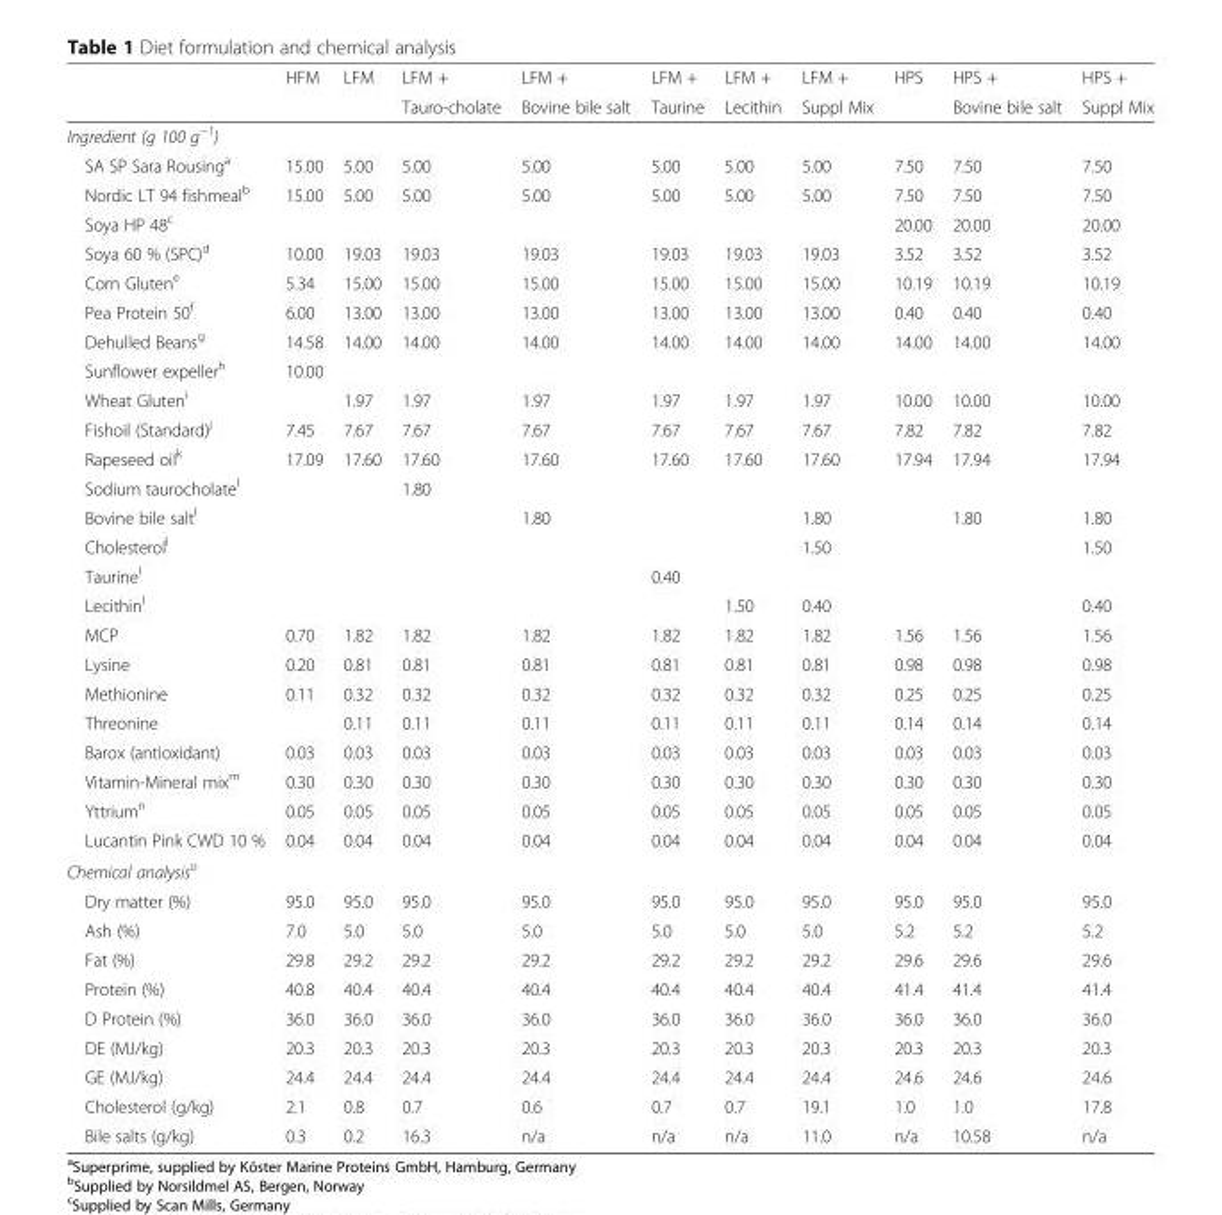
<table><thead><tr><td rowspan="2"></td><td rowspan="2">HFM</td><td rowspan="2">LFM</td><td rowspan="2">LFM + Tauro-cholate</td><td rowspan="2">LFM + Bovine bile salt</td><td rowspan="2">LFM + Taurine</td><td rowspan="2">LFM + Lecithin</td><td rowspan="2">LFM + Suppl Mix</td><td rowspan="2">HPS</td><td rowspan="2">HPS + Bovine bile salt</td><td rowspan="2">HPS + Suppl Mix</td></tr><tr></tr></thead><tbody><tr><td colspan="11">Ingredient (g 100 g<sup>−1</sup>)</td></tr><tr><td>SA SP Sara Rousing<sup>a</sup></td><td>15.00</td><td>5.00</td><td>5.00</td><td>5.00</td><td>5.00</td><td>5.00</td><td>5.00</td><td>7.50</td><td>7.50</td><td>7.50</td></tr><tr><td>Nordic LT 94 fishmeal<sup>b</sup></td><td>15.00</td><td>5.00</td><td>5.00</td><td>5.00</td><td>5.00</td><td>5.00</td><td>5.00</td><td>7.50</td><td>7.50</td><td>7.50</td></tr><tr><td>Soya HP 48<sup>c</sup></td><td></td><td></td><td></td><td></td><td></td><td></td><td></td><td>20.00</td><td>20.00</td><td>20.00</td></tr><tr><td>Soya 60 % (SPC)<sup>d</sup></td><td>10.00</td><td>19.03</td><td>19.03</td><td>19.03</td><td>19.03</td><td>19.03</td><td>19.03</td><td>3.52</td><td>3.52</td><td>3.52</td></tr><tr><td>Corn Gluten<sup>e</sup></td><td>5.34</td><td>15.00</td><td>15.00</td><td>15.00</td><td>15.00</td><td>15.00</td><td>15.00</td><td>10.19</td><td>10.19</td><td>10.19</td></tr><tr><td>Pea Protein 50<sup>f</sup></td><td>6.00</td><td>13.00</td><td>13.00</td><td>13.00</td><td>13.00</td><td>13.00</td><td>13.00</td><td>0.40</td><td>0.40</td><td>0.40</td></tr><tr><td>Dehulled Beans<sup>g</sup></td><td>14.58</td><td>14.00</td><td>14.00</td><td>14.00</td><td>14.00</td><td>14.00</td><td>14.00</td><td>14.00</td><td>14.00</td><td>14.00</td></tr><tr><td>Sunflower expeller<sup>h</sup></td><td>10.00</td><td></td><td></td><td></td><td></td><td></td><td></td><td></td><td></td><td></td></tr><tr><td>Wheat Gluten<sup>i</sup></td><td></td><td>1.97</td><td>1.97</td><td>1.97</td><td>1.97</td><td>1.97</td><td>1.97</td><td>10.00</td><td>10.00</td><td>10.00</td></tr><tr><td>Fishoil (Standard)<sup>j</sup></td><td>7.45</td><td>7.67</td><td>7.67</td><td>7.67</td><td>7.67</td><td>7.67</td><td>7.67</td><td>7.82</td><td>7.82</td><td>7.82</td></tr><tr><td>Rapeseed oil<sup>k</sup></td><td>17.09</td><td>17.60</td><td>17.60</td><td>17.60</td><td>17.60</td><td>17.60</td><td>17.60</td><td>17.94</td><td>17.94</td><td>17.94</td></tr><tr><td>Sodium taurocholate<sup>l</sup></td><td></td><td></td><td>1.80</td><td></td><td></td><td></td><td></td><td></td><td></td><td></td></tr><tr><td>Bovine bile salt<sup>l</sup></td><td></td><td></td><td></td><td>1.80</td><td></td><td></td><td>1.80</td><td></td><td>1.80</td><td>1.80</td></tr><tr><td>Cholesterol<sup>l</sup></td><td></td><td></td><td></td><td></td><td></td><td></td><td>1.50</td><td></td><td></td><td>1.50</td></tr><tr><td>Taurine<sup>l</sup></td><td></td><td></td><td></td><td></td><td>0.40</td><td></td><td></td><td></td><td></td><td></td></tr><tr><td>Lecithin<sup>l</sup></td><td></td><td></td><td></td><td></td><td></td><td>1.50</td><td>0.40</td><td></td><td></td><td>0.40</td></tr><tr><td>MCP</td><td>0.70</td><td>1.82</td><td>1.82</td><td>1.82</td><td>1.82</td><td>1.82</td><td>1.82</td><td>1.56</td><td>1.56</td><td>1.56</td></tr><tr><td>Lysine</td><td>0.20</td><td>0.81</td><td>0.81</td><td>0.81</td><td>0.81</td><td>0.81</td><td>0.81</td><td>0.98</td><td>0.98</td><td>0.98</td></tr><tr><td>Methionine</td><td>0.11</td><td>0.32</td><td>0.32</td><td>0.32</td><td>0.32</td><td>0.32</td><td>0.32</td><td>0.25</td><td>0.25</td><td>0.25</td></tr><tr><td>Threonine</td><td></td><td>0.11</td><td>0.11</td><td>0.11</td><td>0.11</td><td>0.11</td><td>0.11</td><td>0.14</td><td>0.14</td><td>0.14</td></tr><tr><td>Barox (antioxidant)</td><td>0.03</td><td>0.03</td><td>0.03</td><td>0.03</td><td>0.03</td><td>0.03</td><td>0.03</td><td>0.03</td><td>0.03</td><td>0.03</td></tr><tr><td>Vitamin-Mineral mix<sup>m</sup></td><td>0.30</td><td>0.30</td><td>0.30</td><td>0.30</td><td>0.30</td><td>0.30</td><td>0.30</td><td>0.30</td><td>0.30</td><td>0.30</td></tr><tr><td>Yttrium<sup>n</sup></td><td>0.05</td><td>0.05</td><td>0.05</td><td>0.05</td><td>0.05</td><td>0.05</td><td>0.05</td><td>0.05</td><td>0.05</td><td>0.05</td></tr><tr><td>Lucantin Pink CWD 10 %</td><td>0.04</td><td>0.04</td><td>0.04</td><td>0.04</td><td>0.04</td><td>0.04</td><td>0.04</td><td>0.04</td><td>0.04</td><td>0.04</td></tr><tr><td colspan="11">Chemical analysis<sup>o</sup></td></tr><tr><td>Dry matter (%)</td><td>95.0</td><td>95.0</td><td>95.0</td><td>95.0</td><td>95.0</td><td>95.0</td><td>95.0</td><td>95.0</td><td>95.0</td><td>95.0</td></tr><tr><td>Ash (%)</td><td>7.0</td><td>5.0</td><td>5.0</td><td>5.0</td><td>5.0</td><td>5.0</td><td>5.0</td><td>5.2</td><td>5.2</td><td>5.2</td></tr><tr><td>Fat (%)</td><td>29.8</td><td>29.2</td><td>29.2</td><td>29.2</td><td>29.2</td><td>29.2</td><td>29.2</td><td>29.6</td><td>29.6</td><td>29.6</td></tr><tr><td>Protein (%)</td><td>40.8</td><td>40.4</td><td>40.4</td><td>40.4</td><td>40.4</td><td>40.4</td><td>40.4</td><td>41.4</td><td>41.4</td><td>41.4</td></tr><tr><td>D Protein (%)</td><td>36.0</td><td>36.0</td><td>36.0</td><td>36.0</td><td>36.0</td><td>36.0</td><td>36.0</td><td>36.0</td><td>36.0</td><td>36.0</td></tr><tr><td>DE (MJ/kg)</td><td>20.3</td><td>20.3</td><td>20.3</td><td>20.3</td><td>20.3</td><td>20.3</td><td>20.3</td><td>20.3</td><td>20.3</td><td>20.3</td></tr><tr><td>GE (MJ/kg)</td><td>24.4</td><td>24.4</td><td>24.4</td><td>24.4</td><td>24.4</td><td>24.4</td><td>24.4</td><td>24.6</td><td>24.6</td><td>24.6</td></tr><tr><td>Cholesterol (g/kg)</td><td>2.1</td><td>0.8</td><td>0.7</td><td>0.6</td><td>0.7</td><td>0.7</td><td>19.1</td><td>1.0</td><td>1.0</td><td>17.8</td></tr><tr><td>Bile salts (g/kg)</td><td>0.3</td><td>0.2</td><td>16.3</td><td>n/a</td><td>n/a</td><td>n/a</td><td>11.0</td><td>n/a</td><td>10.58</td><td>n/a</td></tr></tbody></table>